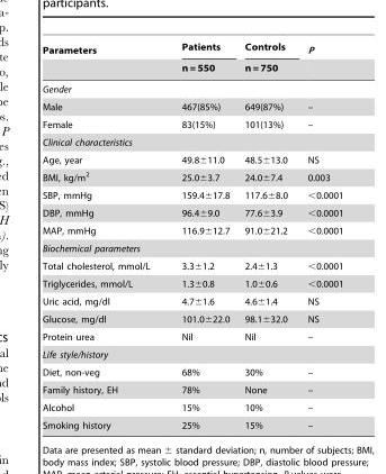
<table><thead><tr><td rowspan="2">Parameters</td><td rowspan="2">Patients n = 550</td><td rowspan="2">Controls n = 750</td><td rowspan="2">P</td></tr><tr></tr></thead><tbody><tr><td colspan="4">Gender</td></tr><tr><td>Male</td><td>467(85%)</td><td>649(87%)</td><td>–</td></tr><tr><td>Female</td><td>83(15%)</td><td>101(13%)</td><td>–</td></tr><tr><td colspan="4">Clinical characteristics</td></tr><tr><td>Age, year</td><td>49.8±11.0</td><td>48.5±13.0</td><td>NS</td></tr><tr><td>BMI, kg/m<sup>2</sup></td><td>25.0±3.7</td><td>24.0±7.4</td><td>0.003</td></tr><tr><td>SBP, mmHg</td><td>159.4±17.8</td><td>117.6±8.0</td><td>&lt;0.0001</td></tr><tr><td>DBP, mmHg</td><td>96.4±9.0</td><td>77.6±3.9</td><td>&lt;0.0001</td></tr><tr><td>MAP, mmHg</td><td>116.9±12.7</td><td>91.0±21.2</td><td>&lt;0.0001</td></tr><tr><td colspan="4">Biochemical parameters</td></tr><tr><td>Total cholesterol, mmol/L</td><td>3.3±1.2</td><td>2.4±1.3</td><td>&lt;0.0001</td></tr><tr><td>Triglycerides, mmol/L</td><td>1.3±0.8</td><td>1.0±0.6</td><td>&lt;0.0001</td></tr><tr><td>Uric acid, mg/dl</td><td>4.7±1.6</td><td>4.6±1.4</td><td>NS</td></tr><tr><td>Glucose, mg/dl</td><td>101.0±22.0</td><td>98.1±32.0</td><td>NS</td></tr><tr><td>Protein urea</td><td>Nil</td><td>Nil</td><td>–</td></tr><tr><td colspan="4">Life style/history</td></tr><tr><td>Diet, non-veg</td><td>68%</td><td>30%</td><td>–</td></tr><tr><td>Family history, EH</td><td>78%</td><td>None</td><td>–</td></tr><tr><td>Alcohol</td><td>15%</td><td>10%</td><td>–</td></tr><tr><td>Smoking history</td><td>25%</td><td>15%</td><td>–</td></tr></tbody></table>